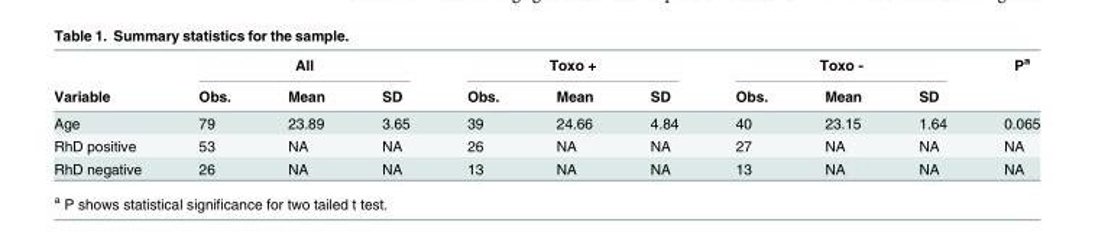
<table><thead><tr><td rowspan="2">Variable</td><td colspan="3">All</td><td colspan="3">Toxo +</td><td colspan="3">Toxo -</td><td rowspan="2">P<sup>a</sup></td></tr><tr><td>Obs.</td><td>Mean</td><td>SD</td><td>Obs.</td><td>Mean</td><td>SD</td><td>Obs.</td><td>Mean</td><td>SD</td></tr></thead><tbody><tr><td>Age</td><td>79</td><td>23.89</td><td>3.65</td><td>39</td><td>24.66</td><td>4.84</td><td>40</td><td>23.15</td><td>1.64</td><td>0.065</td></tr><tr><td>RhD positive</td><td>53</td><td>NA</td><td>NA</td><td>26</td><td>NA</td><td>NA</td><td>27</td><td>NA</td><td>NA</td><td>NA</td></tr><tr><td>RhD negative</td><td>26</td><td>NA</td><td>NA</td><td>13</td><td>NA</td><td>NA</td><td>13</td><td>NA</td><td>NA</td><td>NA</td></tr></tbody></table>